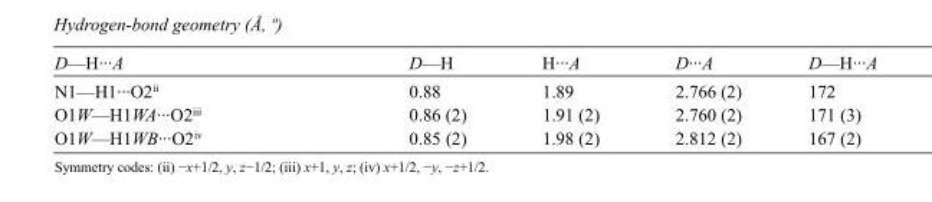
<table><tbody><tr><td>D—H···A</td><td>D—H</td><td>H···A</td><td>D···A</td><td>D—H···A</td></tr><tr><td>N1—H1···O2<sup>ii</sup></td><td>0.88</td><td>1.89</td><td>2.766 (2)</td><td>172</td></tr><tr><td>O1W—H1WA···O2<sup>iii</sup></td><td>0.86 (2)</td><td>1.91 (2)</td><td>2.760 (2)</td><td>171 (3)</td></tr><tr><td>O1W—H1WB···O2<sup>iv</sup></td><td>0.85 (2)</td><td>1.98 (2)</td><td>2.812 (2)</td><td>167 (2)</td></tr></tbody></table>